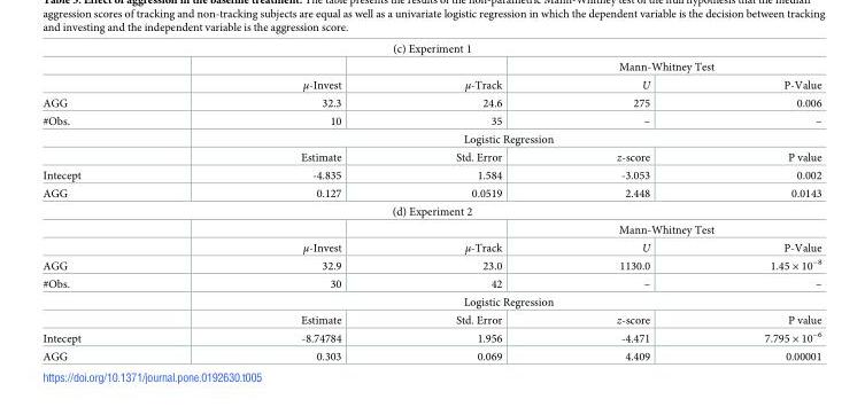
<table><tbody><tr><td colspan="5">(c) Experiment 1</td></tr><tr><td></td><td></td><td></td><td colspan="2">Mann-Whitney Test</td></tr><tr><td></td><td>μ-Invest</td><td>μ-Track</td><td>U</td><td>P-Value</td></tr><tr><td>AGG</td><td>32.3</td><td>24.6</td><td>275</td><td>0.006</td></tr><tr><td rowspan="3">#Obs.</td><td>10</td><td>35</td><td>–</td><td>–</td></tr><tr><td colspan="4">Logistic Regression</td></tr><tr><td>Estimate</td><td>Std. Error</td><td>z-score</td><td>P value</td></tr><tr><td>Intecept</td><td>-4.835</td><td>1.584</td><td>-3.053</td><td>0.002</td></tr><tr><td>AGG</td><td>0.127</td><td>0.0519</td><td>2.448</td><td>0.0143</td></tr><tr><td colspan="5">(d) Experiment 2</td></tr><tr><td></td><td></td><td></td><td colspan="2">Mann-Whitney Test</td></tr><tr><td></td><td>μ-Invest</td><td>μ-Track</td><td>U</td><td>P-Value</td></tr><tr><td>AGG</td><td>32.9</td><td>23.0</td><td>1130.0</td><td>1.45 × 10<sup>−8</sup></td></tr><tr><td rowspan="3">#Obs.</td><td>30</td><td>42</td><td>–</td><td>–</td></tr><tr><td colspan="4">Logistic Regression</td></tr><tr><td>Estimate</td><td>Std. Error</td><td>z-score</td><td>P value</td></tr><tr><td>Intecept</td><td>-8.74784</td><td>1.956</td><td>-4.471</td><td>7.795 × 10<sup>−6</sup></td></tr><tr><td>AGG</td><td>0.303</td><td>0.069</td><td>4.409</td><td>0.00001</td></tr></tbody></table>